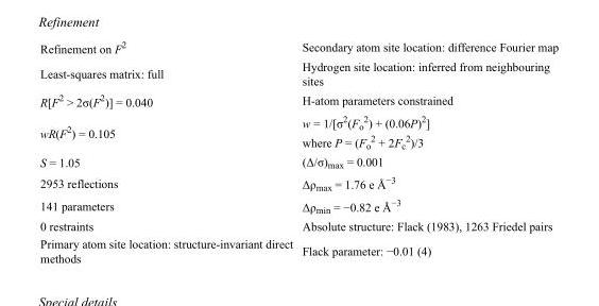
<table><tbody><tr><td>Refinement on F<sup>2</sup></td><td>Secondary atom site location: difference Fourier map</td></tr><tr><td>Least-squares matrix: full</td><td>Hydrogen site location: inferred from neighbouring sites</td></tr><tr><td>R[F<sup>2</sup> &gt; 2σ(F<sup>2</sup>)] = 0.040</td><td>H-atom parameters constrained</td></tr><tr><td>wR(F<sup>2</sup>) = 0.105</td><td>w = 1/[σ<sup>2</sup>(F<sub>o</sub> <sup>2</sup>) + (0.06P)<sup>2</sup>] where P = (F<sub>o</sub> <sup>2</sup> + 2F<sub>c</sub> <sup>2</sup>)/3</td></tr><tr><td>S = 1.05</td><td>(Δ/σ)<sub>max</sub> = 0.001</td></tr><tr><td>2953 reflections</td><td>Δρ<sub>max</sub> = 1.76 e Å<sup>−3</sup></td></tr><tr><td>141 parameters</td><td>Δρ<sub>min</sub> = −0.82 e Å<sup>−3</sup></td></tr><tr><td>0 restraints</td><td>Absolute structure: Flack (1983), 1263 Friedel pairs</td></tr><tr><td>Primary atom site location: structure-invariant direct methods</td><td>Flack parameter: −0.01 (4)</td></tr></tbody></table>